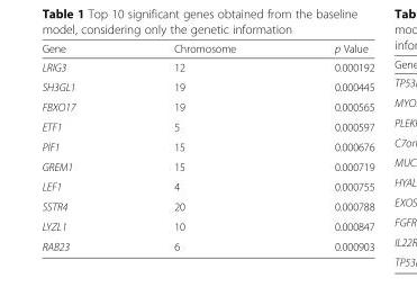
<table><thead><tr><td>Gene</td><td>Chromosome</td><td>p Value</td></tr></thead><tbody><tr><td>LRIG3</td><td>12</td><td>0.000192</td></tr><tr><td>SH3GL1</td><td>19</td><td>0.000445</td></tr><tr><td>FBXO17</td><td>19</td><td>0.000565</td></tr><tr><td>ETF1</td><td>5</td><td>0.000597</td></tr><tr><td>PIF1</td><td>15</td><td>0.000676</td></tr><tr><td>GREM1</td><td>15</td><td>0.000719</td></tr><tr><td>LEF1</td><td>4</td><td>0.000755</td></tr><tr><td>SSTR4</td><td>20</td><td>0.000788</td></tr><tr><td>LYZL1</td><td>10</td><td>0.000847</td></tr><tr><td>RAB23</td><td>6</td><td>0.000903</td></tr></tbody></table>